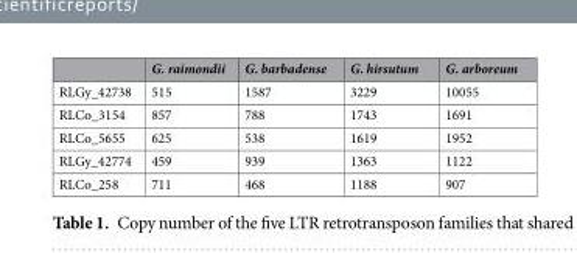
<table><thead><tr><td></td><td>G. raimondii</td><td>G. barbadense</td><td>G. hirsutum</td><td>G. arboreum</td></tr></thead><tbody><tr><td>RLGy_42738</td><td>515</td><td>1587</td><td>3229</td><td>10055</td></tr><tr><td>RLCo_3154</td><td>857</td><td>788</td><td>1743</td><td>1691</td></tr><tr><td>RLCo_5655</td><td>625</td><td>538</td><td>1619</td><td>1952</td></tr><tr><td>RLGy_42774</td><td>459</td><td>939</td><td>1363</td><td>1122</td></tr><tr><td>RLCo_258</td><td>711</td><td>468</td><td>1188</td><td>907</td></tr></tbody></table>